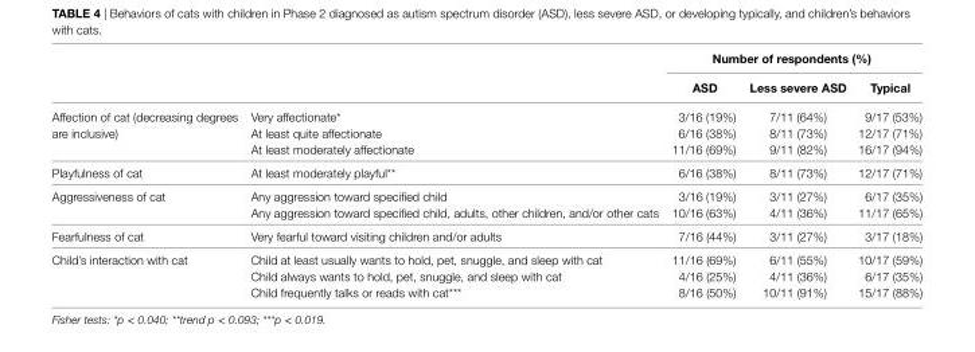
<table><thead><tr><td rowspan="2"></td><td rowspan="2"></td><td colspan="3">number of respondents (%)</td></tr><tr><td>asD</td><td>less severe asD</td><td>Typical</td></tr></thead><tbody><tr><td rowspan="3">Affection of cat (decreasing degrees are inclusive)</td><td>Very affectionate*</td><td>3/16 (19%)</td><td>7/11 (64%)</td><td>9/17 (53%)</td></tr><tr><td>At least quite affectionate</td><td>6/16 (38%)</td><td>8/11 (73%)</td><td>12/17 (71%)</td></tr><tr><td>At least moderately affectionate</td><td>11/16 (69%)</td><td>9/11 (82%)</td><td>16/17 (94%)</td></tr><tr><td>Playfulness of cat</td><td>At least moderately playful**</td><td>6/16 (38%)</td><td>8/11 (73%)</td><td>12/17 (71%)</td></tr><tr><td rowspan="2">Aggressiveness of cat</td><td>Any aggression toward specified child</td><td>3/16 (19%)</td><td>3/11 (27%)</td><td>6/17 (35%)</td></tr><tr><td>Any aggression toward specified child, adults, other children, and/or other cats</td><td>10/16 (63%)</td><td>4/11 (36%)</td><td>11/17 (65%)</td></tr><tr><td>Fearfulness of cat</td><td>Very fearful toward visiting children and/or adults</td><td>7/16 (44%)</td><td>3/11 (27%)</td><td>3/17 (18%)</td></tr><tr><td rowspan="3">Child’s interaction with cat</td><td>Child at least usually wants to hold, pet, snuggle, and sleep with cat</td><td>11/16 (69%)</td><td>6/11 (55%)</td><td>10/17 (59%)</td></tr><tr><td>Child always wants to hold, pet, snuggle, and sleep with cat</td><td>4/16 (25%)</td><td>4/11 (36%)</td><td>6/17 (35%)</td></tr><tr><td>Child frequently talks or reads with cat***</td><td>8/16 (50%)</td><td>10/11 (91%)</td><td>15/17 (88%)</td></tr></tbody></table>